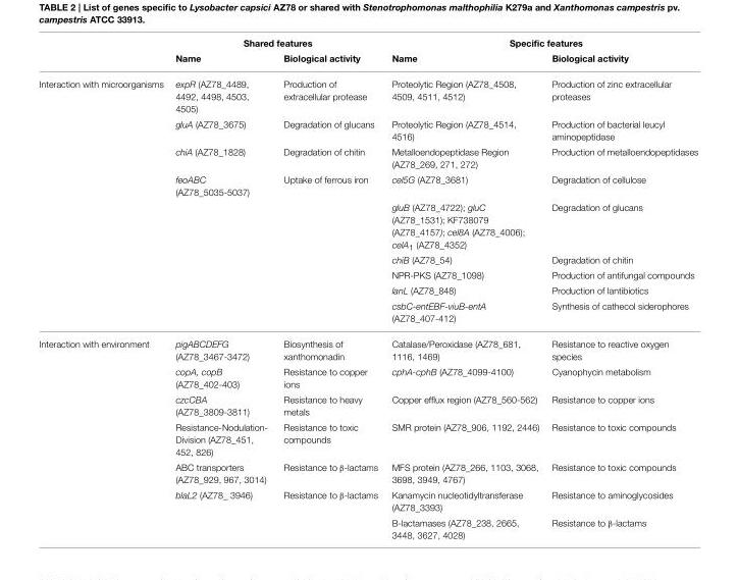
<table><thead><tr><td rowspan="2"></td><td colspan="2">Shared features</td><td colspan="2">Specific features</td></tr><tr><td>Name</td><td>Biological activity</td><td>Name</td><td>Biological activity</td></tr></thead><tbody><tr><td rowspan="9">Interaction with microorganisms</td><td>expR (AZ78_4489, 4492, 4498, 4503, 4505)</td><td>Production of extracellular protease</td><td>Proteolytic Region (AZ78_4508, 4509, 4511, 4512)</td><td>Production of zinc extracellular proteases</td></tr><tr><td>gluA (AZ78_3675)</td><td>Degradation of glucans</td><td>Proteolytic Region (AZ78_4514, 4516)</td><td>Production of bacterial leucyl aminopeptidase</td></tr><tr><td>chiA (AZ78_1828)</td><td>Degradation of chitin</td><td>Metalloendopeptidase Region (AZ78_269, 271, 272)</td><td>Production of metalloendopeptidases</td></tr><tr><td>feoABC (AZ78_5035-5037)</td><td>Uptake of ferrous iron</td><td>cel5G (AZ78_3681)</td><td>Degradation of cellulose</td></tr><tr><td></td><td></td><td>gluB (AZ78_4722); gluC (AZ78_1531); KF738079 (AZ78_4157); cel8A (AZ78_4006); celA<sub>1</sub> (AZ78_4352)</td><td>Degradation of glucans</td></tr><tr><td></td><td></td><td>chiB (AZ78_54)</td><td>Degradation of chitin</td></tr><tr><td></td><td></td><td>NPR-PKS (AZ78_1098)</td><td>Production of antifungal compounds</td></tr><tr><td></td><td></td><td>lanL (AZ78_848)</td><td>Production of lantibiotics</td></tr><tr><td></td><td></td><td>csbC-entEBF-viuB-entA (AZ78_407-412)</td><td>Synthesis of cathecol siderophores</td></tr><tr><td rowspan="7">Interaction with environment</td><td>pigABCDEFG (AZ78_3467-3472)</td><td>Biosynthesis of xanthomonadin</td><td>Catalase/Peroxidase (AZ78_681, 1116, 1469)</td><td>Resistance to reactive oxygen species</td></tr><tr><td>copA, copB (AZ78_402-403)</td><td>Resistance to copper ions</td><td>cphA-cphB (AZ78_4099-4100)</td><td>Cyanophycin metabolism</td></tr><tr><td>czcCBA (AZ78_3809-3811)</td><td>Resistance to heavy metals</td><td>Copper efflux region (AZ78_560-562)</td><td>Resistance to copper ions</td></tr><tr><td>Resistance-Nodulation- Division (AZ78_451, 452, 826)</td><td>Resistance to toxic compounds</td><td>SMR protein (AZ78_906, 1192, 2446)</td><td>Resistance to toxic compounds</td></tr><tr><td>ABC transporters (AZ78_929, 967, 3014)</td><td>Resistance to β-lactams</td><td>MFS protein (AZ78_266, 1103, 3068, 3698, 3949, 4767)</td><td>Resistance to toxic compounds</td></tr><tr><td>blaL2 (AZ78_ 3946)</td><td>Resistance to β-lactams</td><td>Kanamycin nucleotidyltransferase (AZ78_3393)</td><td>Resistance to aminoglycosides</td></tr><tr><td></td><td></td><td>B-lactamases (AZ78_238, 2665, 3448, 3627, 4028)</td><td>Resistance to β-lactams</td></tr></tbody></table>